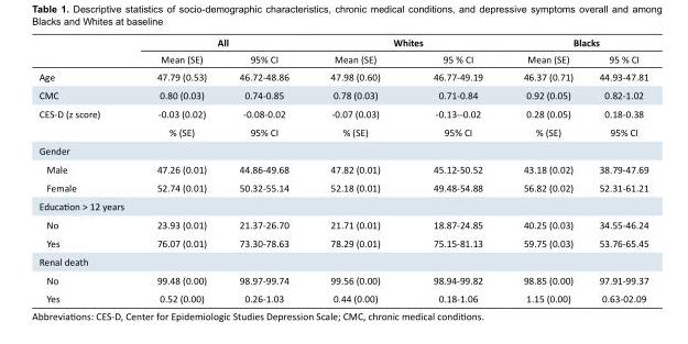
<table><thead><tr><td rowspan="2"></td><td colspan="2">All</td><td colspan="2">Whites</td><td colspan="2">Blacks</td></tr><tr><td>Mean (SE)</td><td>95% CI</td><td>Mean (SE)</td><td>95 % CI</td><td>Mean (SE)</td><td>95 % CI</td></tr></thead><tbody><tr><td>Age</td><td>47.79 (0.53)</td><td>46.72-48.86</td><td>47.98 (0.60)</td><td>46.77-49.19</td><td>46.37 (0.71)</td><td>44.93-47.81</td></tr><tr><td>CMC</td><td>0.80 (0.03)</td><td>0.74-0.85</td><td>0.78 (0.03)</td><td>0.71-0.84</td><td>0.92 (0.05)</td><td>0.82-1.02</td></tr><tr><td rowspan="2">CES-D (z score)</td><td>-0.03 (0.02)</td><td>-0.08-0.02</td><td>-0.07 (0.03)</td><td>-0.13--0.02</td><td>0.28 (0.05)</td><td>0.18-0.38</td></tr><tr><td>% (SE)</td><td>95% CI</td><td>% (SE)</td><td>95% CI</td><td>% (SE)</td><td>95% CI</td></tr><tr><td colspan="7">Gender</td></tr><tr><td>Male</td><td>47.26 (0.01)</td><td>44.86-49.68</td><td>47.82 (0.01)</td><td>45.12-50.52</td><td>43.18 (0.02)</td><td>38.79-47.69</td></tr><tr><td>Female</td><td>52.74 (0.01)</td><td>50.32-55.14</td><td>52.18 (0.01)</td><td>49.48-54.88</td><td>56.82 (0.02)</td><td>52.31-61.21</td></tr><tr><td colspan="7">Education &gt; 12 years</td></tr><tr><td>No</td><td>23.93 (0.01)</td><td>21.37-26.70</td><td>21.71 (0.01)</td><td>18.87-24.85</td><td>40.25 (0.03)</td><td>34.55-46.24</td></tr><tr><td>Yes</td><td>76.07 (0.01)</td><td>73.30-78.63</td><td>78.29 (0.01)</td><td>75.15-81.13</td><td>59.75 (0.03)</td><td>53.76-65.45</td></tr><tr><td colspan="7">Renal death</td></tr><tr><td>No</td><td>99.48 (0.00)</td><td>98.97-99.74</td><td>99.56 (0.00)</td><td>98.94-99.82</td><td>98.85 (0.00)</td><td>97.91-99.37</td></tr><tr><td>Yes</td><td>0.52 (0.00)</td><td>0.26-1.03</td><td>0.44 (0.00)</td><td>0.18-1.06</td><td>1.15 (0.00)</td><td>0.63-02.09</td></tr></tbody></table>